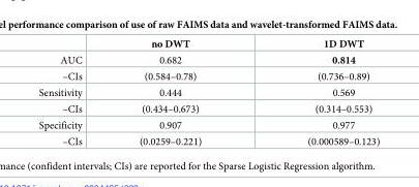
<table><thead><tr><td></td><td>no DWT</td><td>1D DWT</td></tr></thead><tbody><tr><td>AUC</td><td>0.682</td><td>0.814</td></tr><tr><td>–CIs</td><td>(0.584–0.78)</td><td>(0.736–0.89)</td></tr><tr><td>Sensitivity</td><td>0.444</td><td>0.569</td></tr><tr><td>–CIs</td><td>(0.434–0.673)</td><td>(0.314–0.553)</td></tr><tr><td>Specificity</td><td>0.907</td><td>0.977</td></tr><tr><td>–CIs</td><td>(0.0259–0.221)</td><td>(0.000589–0.123)</td></tr></tbody></table>